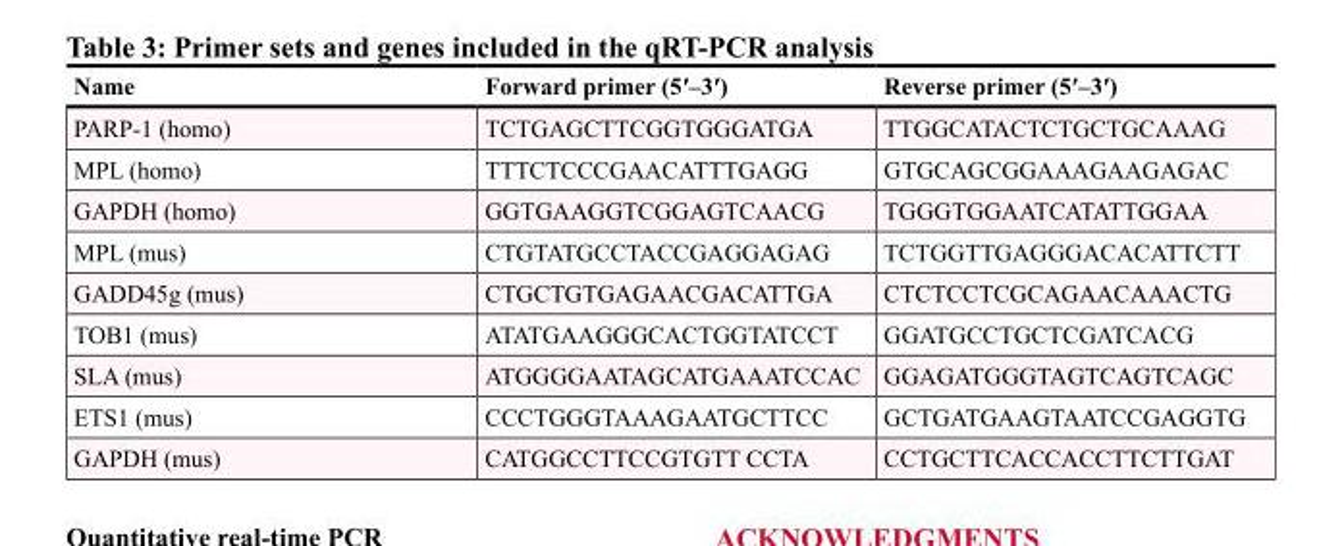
<table><thead><tr><td>Name</td><td>Forward primer (5′–3′)</td><td>Reverse primer (5′–3′)</td></tr></thead><tbody><tr><td>PARP-1 (homo)</td><td>TCTGAGCTTCGGTGGGATGA</td><td>TTGGCATACTCTGCTGCAAAG</td></tr><tr><td>MPL (homo)</td><td>TTTCTCCCGAACATTTGAGG</td><td>GTGCAGCGGAAAGAAGAGAC</td></tr><tr><td>GAPDH (homo)</td><td>GGTGAAGGTCGGAGTCAACG</td><td>TGGGTGGAATCATATTGGAA</td></tr><tr><td>MPL (mus)</td><td>CTGTATGCCTACCGAGGAGAG</td><td>TCTGGTTGAGGGACACATTCTT</td></tr><tr><td>GADD45g (mus)</td><td>CTGCTGTGAGAACGACATTGA</td><td>CTCTCCTCGCAGAACAAACTG</td></tr><tr><td>TOB1 (mus)</td><td>ATATGAAGGGCACTGGTATCCT</td><td>GGATGCCTGCTCGATCACG</td></tr><tr><td>SLA (mus)</td><td>ATGGGGAATAGCATGAAATCCAC</td><td>GGAGATGGGTAGTCAGTCAGC</td></tr><tr><td>ETS1 (mus)</td><td>CCCTGGGTAAAGAATGCTTCC</td><td>GCTGATGAAGTAATCCGAGGTG</td></tr><tr><td>GAPDH (mus)</td><td>CATGGCCTTCCGTGTT CCTA</td><td>CCTGCTTCACCACCTTCTTGAT</td></tr></tbody></table>